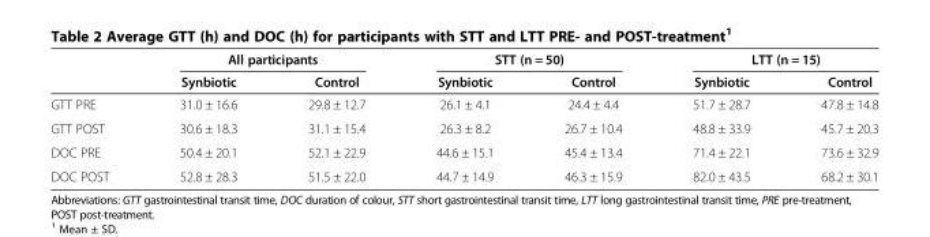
<table><thead><tr><td rowspan="2"></td><td colspan="2">All participants</td><td colspan="2">STT (n = 50)</td><td colspan="2">LTT (n = 15)</td></tr><tr><td>Synbiotic</td><td>Control</td><td>Synbiotic</td><td>Control</td><td>Synbiotic</td><td>Control</td></tr></thead><tbody><tr><td>GTT PRE</td><td>31.0 ± 16.6</td><td>29.8 ± 12.7</td><td>26.1 ± 4.1</td><td>24.4 ± 4.4</td><td>51.7 ± 28.7</td><td>47.8 ± 14.8</td></tr><tr><td>GTT POST</td><td>30.6 ± 18.3</td><td>31.1 ± 15.4</td><td>26.3 ± 8.2</td><td>26.7 ± 10.4</td><td>48.8 ± 33.9</td><td>45.7 ± 20.3</td></tr><tr><td>DOC PRE</td><td>50.4 ± 20.1</td><td>52.1 ± 22.9</td><td>44.6 ± 15.1</td><td>45.4 ± 13.4</td><td>71.4 ± 22.1</td><td>73.6 ± 32.9</td></tr><tr><td>DOC POST</td><td>52.8 ± 28.3</td><td>51.5 ± 22.0</td><td>44.7 ± 14.9</td><td>46.3 ± 15.9</td><td>82.0 ± 43.5</td><td>68.2 ± 30.1</td></tr></tbody></table>